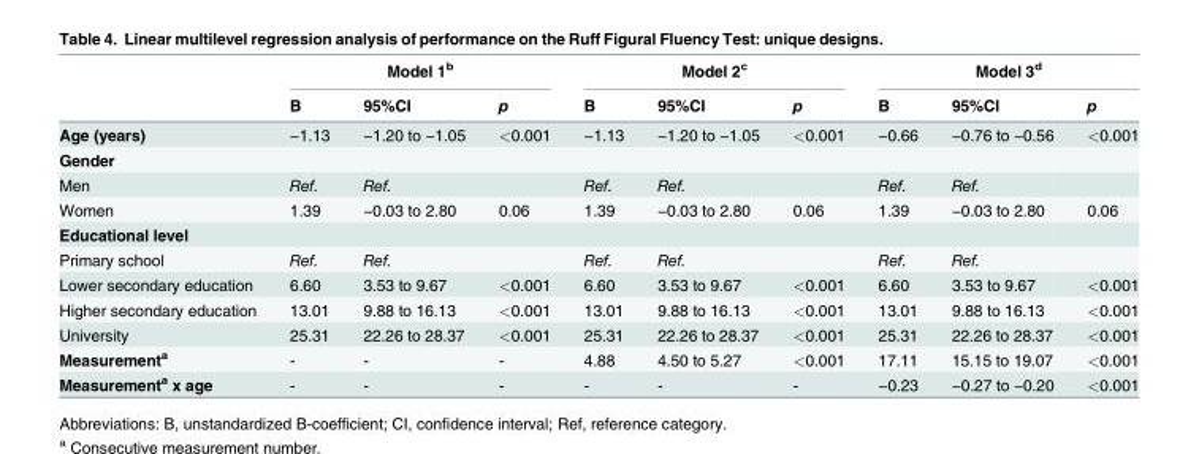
<table><thead><tr><td rowspan="2"></td><td colspan="3">Model 1<sup>b</sup></td><td colspan="3">Model 2<sup>c</sup></td><td colspan="3">Model 3<sup>d</sup></td></tr><tr><td>B</td><td>95%CI</td><td>p</td><td>B</td><td>95%CI</td><td>p</td><td>B</td><td>95%CI</td><td>p</td></tr></thead><tbody><tr><td>Age (years)</td><td>−1.13</td><td>−1.20 to −1.05</td><td>&lt;0.001</td><td>−1.13</td><td>−1.20 to −1.05</td><td>&lt;0.001</td><td>−0.66</td><td>−0.76 to −0.56</td><td>&lt;0.001</td></tr><tr><td colspan="10">Gender</td></tr><tr><td>Men</td><td>Ref.</td><td>Ref.</td><td></td><td>Ref.</td><td>Ref.</td><td></td><td>Ref.</td><td>Ref.</td><td></td></tr><tr><td>Women</td><td>1.39</td><td>−0.03 to 2.80</td><td>0.06</td><td>1.39</td><td>−0.03 to 2.80</td><td>0.06</td><td>1.39</td><td>−0.03 to 2.80</td><td>0.06</td></tr><tr><td colspan="10">Educational level</td></tr><tr><td>Primary school</td><td>Ref.</td><td>Ref.</td><td></td><td>Ref.</td><td>Ref.</td><td></td><td>Ref.</td><td>Ref.</td><td></td></tr><tr><td>Lower secondary education</td><td>6.60</td><td>3.53 to 9.67</td><td>&lt;0.001</td><td>6.60</td><td>3.53 to 9.67</td><td>&lt;0.001</td><td>6.60</td><td>3.53 to 9.67</td><td>&lt;0.001</td></tr><tr><td>Higher secondary education</td><td>13.01</td><td>9.88 to 16.13</td><td>&lt;0.001</td><td>13.01</td><td>9.88 to 16.13</td><td>&lt;0.001</td><td>13.01</td><td>9.88 to 16.13</td><td>&lt;0.001</td></tr><tr><td>University</td><td>25.31</td><td>22.26 to 28.37</td><td>&lt;0.001</td><td>25.31</td><td>22.26 to 28.37</td><td>&lt;0.001</td><td>25.31</td><td>22.26 to 28.37</td><td>&lt;0.001</td></tr><tr><td>Measurement<sup>a</sup></td><td>-</td><td>-</td><td>-</td><td>4.88</td><td>4.50 to 5.27</td><td>&lt;0.001</td><td>17.11</td><td>15.15 to 19.07</td><td>&lt;0.001</td></tr><tr><td>Measurement<sup>a</sup> x age</td><td>-</td><td>-</td><td>-</td><td>-</td><td>-</td><td>-</td><td>−0.23</td><td>−0.27 to −0.20</td><td>&lt;0.001</td></tr></tbody></table>